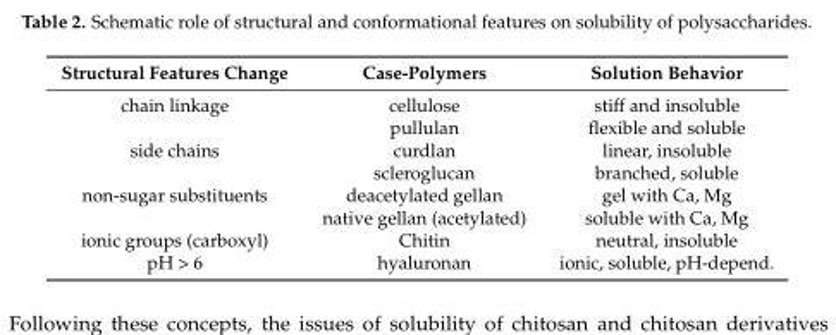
<table><thead><tr><td>Structural Features Change</td><td>Case-Polymers</td><td>Solution Behavior</td></tr></thead><tbody><tr><td rowspan="2">chain linkage</td><td>cellulose</td><td>stiff and insoluble</td></tr><tr><td>pullulan</td><td>flexible and soluble</td></tr><tr><td rowspan="2">side chains</td><td>curdlan</td><td>linear, insoluble</td></tr><tr><td>scleroglucan</td><td>branched, soluble</td></tr><tr><td rowspan="2">non-sugar substituents</td><td>deacetylated gellan</td><td>gel with Ca, Mg</td></tr><tr><td>native gellan (acetylated)</td><td>soluble with Ca, Mg</td></tr><tr><td>ionic groups (carboxyl)</td><td>Chitin</td><td>neutral, insoluble</td></tr><tr><td>pH &gt; 6</td><td>hyaluronan</td><td>ionic, soluble, pH-depend.</td></tr></tbody></table>